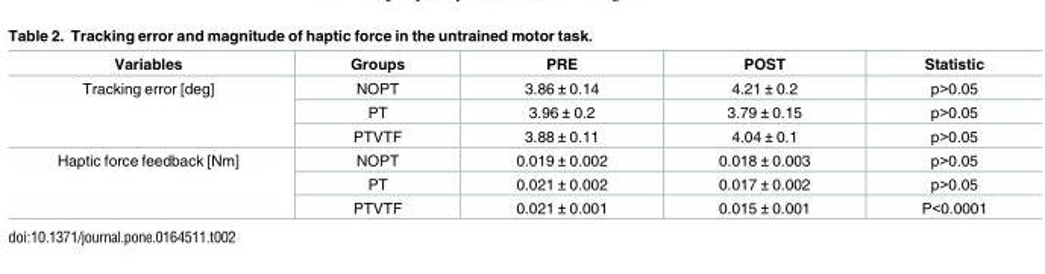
<table><thead><tr><td>Variables</td><td>Groups</td><td>PRE</td><td>POST</td><td>Statistic</td></tr></thead><tbody><tr><td rowspan="3">Tracking error [deg]</td><td>NOPT</td><td>3.86 ± 0.14</td><td>4.21 ± 0.2</td><td>p&gt;0.05</td></tr><tr><td>PT</td><td>3.96 ± 0.2</td><td>3.79 ± 0.15</td><td>p&gt;0.05</td></tr><tr><td>PTVTF</td><td>3.88 ± 0.11</td><td>4.04 ± 0.1</td><td>p&gt;0.05</td></tr><tr><td rowspan="3">Haptic force feedback [Nm]</td><td>NOPT</td><td>0.019 ± 0.002</td><td>0.018 ± 0.003</td><td>p&gt;0.05</td></tr><tr><td>PT</td><td>0.021 ± 0.002</td><td>0.017 ± 0.002</td><td>p&gt;0.05</td></tr><tr><td>PTVTF</td><td>0.021 ± 0.001</td><td>0.015 ± 0.001</td><td>P&lt;0.0001</td></tr></tbody></table>